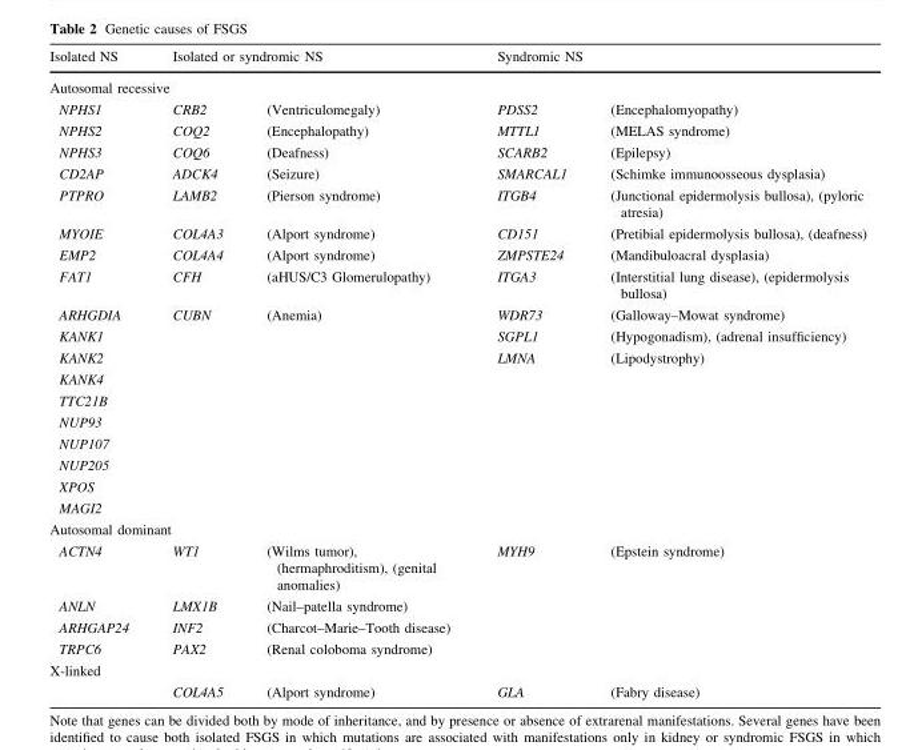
<table><thead><tr><td>Isolated NS</td><td colspan="2">Isolated or syndromic NS</td><td colspan="2">Syndromic NS</td></tr><tr><td colspan="5">Autosomal recessive</td></tr><tr><td>NPHS1</td><td>CRB2</td><td>(Ventriculomegaly)</td><td>PDSS2</td><td>(Encephalomyopathy)</td></tr></thead><tbody><tr><td>NPHS2</td><td>COQ2</td><td>(Encephalopathy)</td><td>MTTL1</td><td>(MELAS syndrome)</td></tr><tr><td>NPHS3</td><td>COQ6</td><td>(Deafness)</td><td>SCARB2</td><td>(Epilepsy)</td></tr><tr><td>CD2AP</td><td>ADCK4</td><td>(Seizure)</td><td>SMARCAL1</td><td>(Schimke immunoosseous dysplasia)</td></tr><tr><td>PTPRO</td><td>LAMB2</td><td>(Pierson syndrome)</td><td>ITGB4</td><td>(Junctional epidermolysis bullosa), (pyloric atresia)</td></tr><tr><td>MYOIE</td><td>COL4A3</td><td>(Alport syndrome)</td><td>CD151</td><td>(Pretibial epidermolysis bullosa), (deafness)</td></tr><tr><td>EMP2</td><td>COL4A4</td><td>(Alport syndrome)</td><td>ZMPSTE24</td><td>(Mandibuloacral dysplasia)</td></tr><tr><td>FAT1</td><td>CFH</td><td>(aHUS/C3 Glomerulopathy)</td><td>ITGA3</td><td>(Interstitial lung disease), (epidermolysis bullosa)</td></tr><tr><td>ARHGDIA</td><td>CUBN</td><td>(Anemia)</td><td>WDR73</td><td>(Galloway–Mowat syndrome)</td></tr><tr><td>KANK1</td><td></td><td></td><td>SGPL1</td><td>(Hypogonadism), (adrenal insufficiency)</td></tr><tr><td>KANK2</td><td></td><td></td><td>LMNA</td><td>(Lipodystrophy)</td></tr><tr><td colspan="5">KANK4</td></tr><tr><td colspan="5">TTC21B</td></tr><tr><td colspan="5">NUP93</td></tr><tr><td colspan="5">NUP107</td></tr><tr><td colspan="5">NUP205</td></tr><tr><td colspan="5">XPOS</td></tr><tr><td colspan="5">MAGI2</td></tr><tr><td colspan="5">Autosomal dominant</td></tr><tr><td>ACTN4</td><td>WT1</td><td>(Wilms tumor), (hermaphroditism), (genital anomalies)</td><td>MYH9</td><td>(Epstein syndrome)</td></tr><tr><td>ANLN</td><td>LMX1B</td><td>(Nail–patella syndrome)</td><td></td><td></td></tr><tr><td>ARHGAP24</td><td>INF2</td><td>(Charcot–Marie–Tooth disease)</td><td></td><td></td></tr><tr><td>TRPC6</td><td>PAX2</td><td>(Renal coloboma syndrome)</td><td></td><td></td></tr><tr><td colspan="5">X-linked</td></tr><tr><td></td><td>COL4A5</td><td>(Alport syndrome)</td><td>GLA</td><td>(Fabry disease)</td></tr></tbody></table>